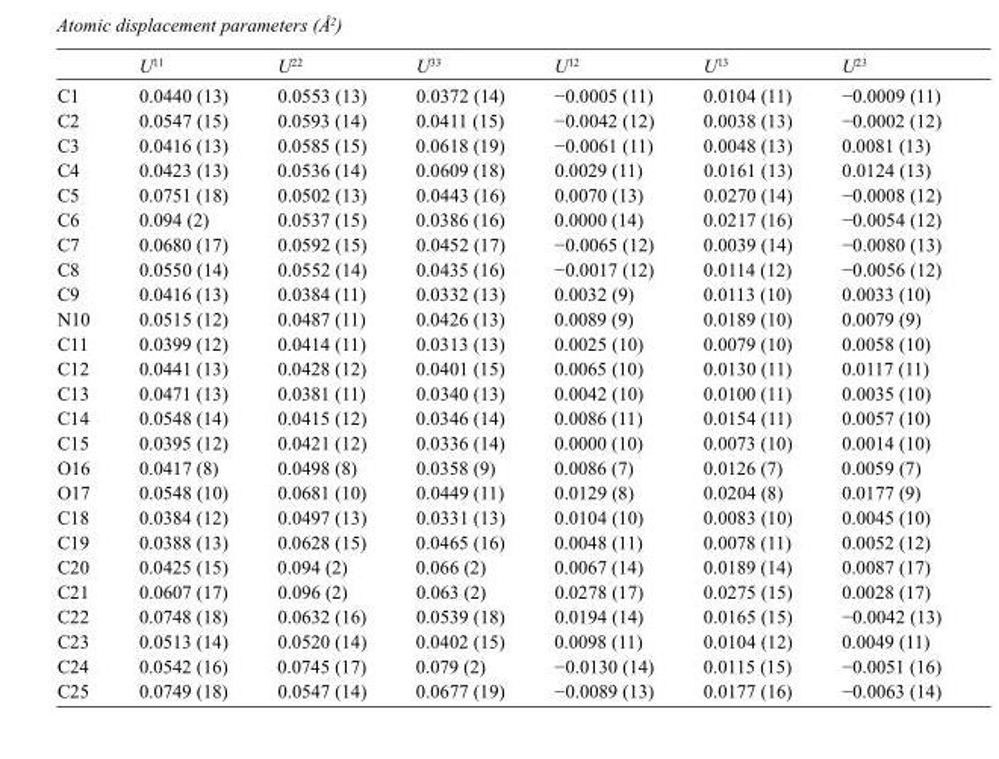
<table><thead><tr><td></td><td>U<sup>11</sup></td><td>U<sup>22</sup></td><td>U<sup>33</sup></td><td>U<sup>12</sup></td><td>U<sup>13</sup></td><td>U<sup>23</sup></td></tr></thead><tbody><tr><td>C1</td><td>0.0440 (13)</td><td>0.0553 (13)</td><td>0.0372 (14)</td><td>−0.0005 (11)</td><td>0.0104 (11)</td><td>−0.0009 (11)</td></tr><tr><td>C2</td><td>0.0547 (15)</td><td>0.0593 (14)</td><td>0.0411 (15)</td><td>−0.0042 (12)</td><td>0.0038 (13)</td><td>−0.0002 (12)</td></tr><tr><td>C3</td><td>0.0416 (13)</td><td>0.0585 (15)</td><td>0.0618 (19)</td><td>−0.0061 (11)</td><td>0.0048 (13)</td><td>0.0081 (13)</td></tr><tr><td>C4</td><td>0.0423 (13)</td><td>0.0536 (14)</td><td>0.0609 (18)</td><td>0.0029 (11)</td><td>0.0161 (13)</td><td>0.0124 (13)</td></tr><tr><td>C5</td><td>0.0751 (18)</td><td>0.0502 (13)</td><td>0.0443 (16)</td><td>0.0070 (13)</td><td>0.0270 (14)</td><td>−0.0008 (12)</td></tr><tr><td>C6</td><td>0.094 (2)</td><td>0.0537 (15)</td><td>0.0386 (16)</td><td>0.0000 (14)</td><td>0.0217 (16)</td><td>−0.0054 (12)</td></tr><tr><td>C7</td><td>0.0680 (17)</td><td>0.0592 (15)</td><td>0.0452 (17)</td><td>−0.0065 (12)</td><td>0.0039 (14)</td><td>−0.0080 (13)</td></tr><tr><td>C8</td><td>0.0550 (14)</td><td>0.0552 (14)</td><td>0.0435 (16)</td><td>−0.0017 (12)</td><td>0.0114 (12)</td><td>−0.0056 (12)</td></tr><tr><td>C9</td><td>0.0416 (13)</td><td>0.0384 (11)</td><td>0.0332 (13)</td><td>0.0032 (9)</td><td>0.0113 (10)</td><td>0.0033 (10)</td></tr><tr><td>N10</td><td>0.0515 (12)</td><td>0.0487 (11)</td><td>0.0426 (13)</td><td>0.0089 (9)</td><td>0.0189 (10)</td><td>0.0079 (9)</td></tr><tr><td>C11</td><td>0.0399 (12)</td><td>0.0414 (11)</td><td>0.0313 (13)</td><td>0.0025 (10)</td><td>0.0079 (10)</td><td>0.0058 (10)</td></tr><tr><td>C12</td><td>0.0441 (13)</td><td>0.0428 (12)</td><td>0.0401 (15)</td><td>0.0065 (10)</td><td>0.0130 (11)</td><td>0.0117 (11)</td></tr><tr><td>C13</td><td>0.0471 (13)</td><td>0.0381 (11)</td><td>0.0340 (13)</td><td>0.0042 (10)</td><td>0.0100 (11)</td><td>0.0035 (10)</td></tr><tr><td>C14</td><td>0.0548 (14)</td><td>0.0415 (12)</td><td>0.0346 (14)</td><td>0.0086 (11)</td><td>0.0154 (11)</td><td>0.0057 (10)</td></tr><tr><td>C15</td><td>0.0395 (12)</td><td>0.0421 (12)</td><td>0.0336 (14)</td><td>0.0000 (10)</td><td>0.0073 (10)</td><td>0.0014 (10)</td></tr><tr><td>O16</td><td>0.0417 (8)</td><td>0.0498 (8)</td><td>0.0358 (9)</td><td>0.0086 (7)</td><td>0.0126 (7)</td><td>0.0059 (7)</td></tr><tr><td>O17</td><td>0.0548 (10)</td><td>0.0681 (10)</td><td>0.0449 (11)</td><td>0.0129 (8)</td><td>0.0204 (8)</td><td>0.0177 (9)</td></tr><tr><td>C18</td><td>0.0384 (12)</td><td>0.0497 (13)</td><td>0.0331 (13)</td><td>0.0104 (10)</td><td>0.0083 (10)</td><td>0.0045 (10)</td></tr><tr><td>C19</td><td>0.0388 (13)</td><td>0.0628 (15)</td><td>0.0465 (16)</td><td>0.0048 (11)</td><td>0.0078 (11)</td><td>0.0052 (12)</td></tr><tr><td>C20</td><td>0.0425 (15)</td><td>0.094 (2)</td><td>0.066 (2)</td><td>0.0067 (14)</td><td>0.0189 (14)</td><td>0.0087 (17)</td></tr><tr><td>C21</td><td>0.0607 (17)</td><td>0.096 (2)</td><td>0.063 (2)</td><td>0.0278 (17)</td><td>0.0275 (15)</td><td>0.0028 (17)</td></tr><tr><td>C22</td><td>0.0748 (18)</td><td>0.0632 (16)</td><td>0.0539 (18)</td><td>0.0194 (14)</td><td>0.0165 (15)</td><td>−0.0042 (13)</td></tr><tr><td>C23</td><td>0.0513 (14)</td><td>0.0520 (14)</td><td>0.0402 (15)</td><td>0.0098 (11)</td><td>0.0104 (12)</td><td>0.0049 (11)</td></tr><tr><td>C24</td><td>0.0542 (16)</td><td>0.0745 (17)</td><td>0.079 (2)</td><td>−0.0130 (14)</td><td>0.0115 (15)</td><td>−0.0051 (16)</td></tr><tr><td>C25</td><td>0.0749 (18)</td><td>0.0547 (14)</td><td>0.0677 (19)</td><td>−0.0089 (13)</td><td>0.0177 (16)</td><td>−0.0063 (14)</td></tr></tbody></table>